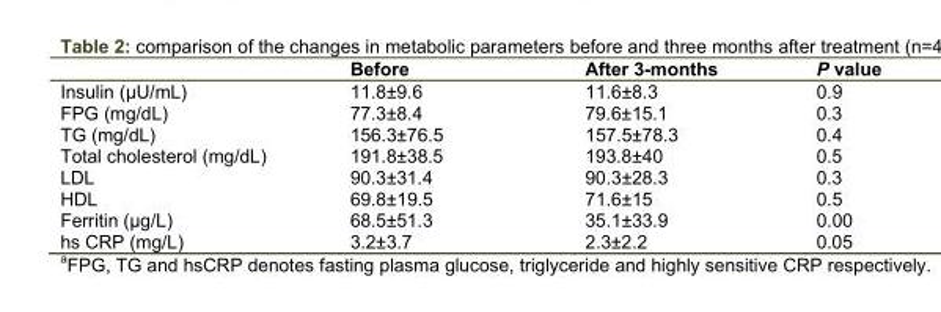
<table><thead><tr><td></td><td>Before</td><td>After 3-months</td><td>P value</td></tr></thead><tbody><tr><td>Insulin (µU/mL)</td><td>11.8±9.6</td><td>11.6±8.3</td><td>0.9</td></tr><tr><td>FPG (mg/dL)</td><td>77.3±8.4</td><td>79.6±15.1</td><td>0.3</td></tr><tr><td>TG (mg/dL)</td><td>156.3±76.5</td><td>157.5±78.3</td><td>0.4</td></tr><tr><td>Total cholesterol (mg/dL)</td><td>191.8±38.5</td><td>193.8±40</td><td>0.5</td></tr><tr><td>LDL</td><td>90.3±31.4</td><td>90.3±28.3</td><td>0.3</td></tr><tr><td>HDL</td><td>69.8±19.5</td><td>71.6±15</td><td>0.5</td></tr><tr><td>Ferritin (µg/L)</td><td>68.5±51.3</td><td>35.1±33.9</td><td>0.00</td></tr><tr><td>hs CRP (mg/L)</td><td>3.2±3.7</td><td>2.3±2.2</td><td>0.05</td></tr></tbody></table>